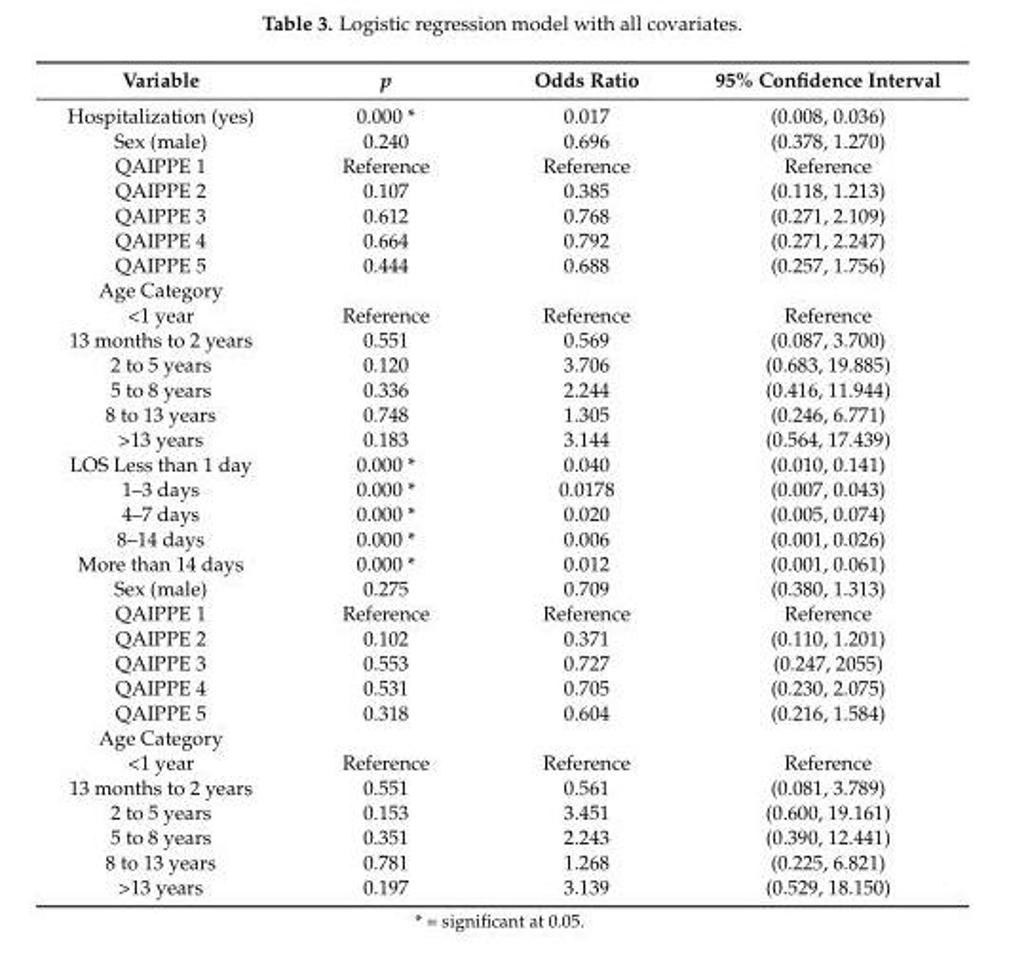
<table><thead><tr><td>Variable</td><td>p</td><td>Odds Ratio</td><td>95% Confidence Interval</td></tr></thead><tbody><tr><td>Hospitalization (yes)</td><td>0.000 *</td><td>0.017</td><td>(0.008, 0.036)</td></tr><tr><td>Sex (male)</td><td>0.240</td><td>0.696</td><td>(0.378, 1.270)</td></tr><tr><td>QAIPPE 1</td><td>Reference</td><td>Reference</td><td>Reference</td></tr><tr><td>QAIPPE 2</td><td>0.107</td><td>0.385</td><td>(0.118, 1.213)</td></tr><tr><td>QAIPPE 3</td><td>0.612</td><td>0.768</td><td>(0.271, 2.109)</td></tr><tr><td>QAIPPE 4</td><td>0.664</td><td>0.792</td><td>(0.271, 2.247)</td></tr><tr><td>QAIPPE 5</td><td>0.444</td><td>0.688</td><td>(0.257, 1.756)</td></tr><tr><td colspan="4">Age Category</td></tr><tr><td>&lt;1 year</td><td>Reference</td><td>Reference</td><td>Reference</td></tr><tr><td>13 months to 2 years</td><td>0.551</td><td>0.569</td><td>(0.087, 3.700)</td></tr><tr><td>2 to 5 years</td><td>0.120</td><td>3.706</td><td>(0.683, 19.885)</td></tr><tr><td>5 to 8 years</td><td>0.336</td><td>2.244</td><td>(0.416, 11.944)</td></tr><tr><td>8 to 13 years</td><td>0.748</td><td>1.305</td><td>(0.246, 6.771)</td></tr><tr><td>&gt;13 years</td><td>0.183</td><td>3.144</td><td>(0.564, 17.439)</td></tr><tr><td>LOS Less than 1 day</td><td>0.000 *</td><td>0.040</td><td>(0.010, 0.141)</td></tr><tr><td>1–3 days</td><td>0.000 *</td><td>0.0178</td><td>(0.007, 0.043)</td></tr><tr><td>4–7 days</td><td>0.000 *</td><td>0.020</td><td>(0.005, 0.074)</td></tr><tr><td>8–14 days</td><td>0.000 *</td><td>0.006</td><td>(0.001, 0.026)</td></tr><tr><td>More than 14 days</td><td>0.000 *</td><td>0.012</td><td>(0.001, 0.061)</td></tr><tr><td>Sex (male)</td><td>0.275</td><td>0.709</td><td>(0.380, 1.313)</td></tr><tr><td>QAIPPE 1</td><td>Reference</td><td>Reference</td><td>Reference</td></tr><tr><td>QAIPPE 2</td><td>0.102</td><td>0.371</td><td>(0.110, 1.201)</td></tr><tr><td>QAIPPE 3</td><td>0.553</td><td>0.727</td><td>(0.247, 2055)</td></tr><tr><td>QAIPPE 4</td><td>0.531</td><td>0.705</td><td>(0.230, 2.075)</td></tr><tr><td>QAIPPE 5</td><td>0.318</td><td>0.604</td><td>(0.216, 1.584)</td></tr><tr><td colspan="4">Age Category</td></tr><tr><td>&lt;1 year</td><td>Reference</td><td>Reference</td><td>Reference</td></tr><tr><td>13 months to 2 years</td><td>0.551</td><td>0.561</td><td>(0.081, 3.789)</td></tr><tr><td>2 to 5 years</td><td>0.153</td><td>3.451</td><td>(0.600, 19.161)</td></tr><tr><td>5 to 8 years</td><td>0.351</td><td>2.243</td><td>(0.390, 12.441)</td></tr><tr><td>8 to 13 years</td><td>0.781</td><td>1.268</td><td>(0.225, 6.821)</td></tr><tr><td>&gt;13 years</td><td>0.197</td><td>3.139</td><td>(0.529, 18.150)</td></tr></tbody></table>